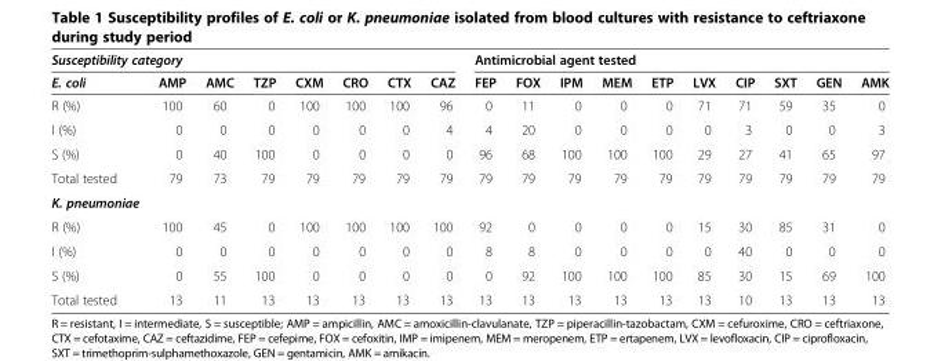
<table><thead><tr><td colspan="8">Susceptibility category</td><td colspan="10">Antimicrobial agent tested</td></tr><tr><td>E. coli</td><td>AMP</td><td>AMC</td><td>TZP</td><td>CXM</td><td>CRO</td><td>CTX</td><td>CAZ</td><td>FEP</td><td>FOX</td><td>IPM</td><td>MEM</td><td>ETP</td><td>LVX</td><td>CIP</td><td>SXT</td><td>GEN</td><td>AMK</td></tr></thead><tbody><tr><td>R (%)</td><td>100</td><td>60</td><td>0</td><td>100</td><td>100</td><td>100</td><td>96</td><td>0</td><td>11</td><td>0</td><td>0</td><td>0</td><td>71</td><td>71</td><td>59</td><td>35</td><td>0</td></tr><tr><td>I (%)</td><td>0</td><td>0</td><td>0</td><td>0</td><td>0</td><td>0</td><td>4</td><td>4</td><td>20</td><td>0</td><td>0</td><td>0</td><td>0</td><td>3</td><td>0</td><td>0</td><td>3</td></tr><tr><td>S (%)</td><td>0</td><td>40</td><td>100</td><td>0</td><td>0</td><td>0</td><td>0</td><td>96</td><td>68</td><td>100</td><td>100</td><td>100</td><td>29</td><td>27</td><td>41</td><td>65</td><td>97</td></tr><tr><td>Total tested</td><td>79</td><td>73</td><td>79</td><td>79</td><td>79</td><td>79</td><td>79</td><td>79</td><td>79</td><td>79</td><td>79</td><td>79</td><td>79</td><td>79</td><td>79</td><td>79</td><td>79</td></tr><tr><td colspan="18">K. pneumoniae</td></tr><tr><td>R (%)</td><td>100</td><td>45</td><td>0</td><td>100</td><td>100</td><td>100</td><td>100</td><td>92</td><td>0</td><td>0</td><td>0</td><td>0</td><td>15</td><td>30</td><td>85</td><td>31</td><td>0</td></tr><tr><td>I (%)</td><td>0</td><td>0</td><td>0</td><td>0</td><td>0</td><td>0</td><td>0</td><td>8</td><td>8</td><td>0</td><td>0</td><td>0</td><td>0</td><td>40</td><td>0</td><td>0</td><td>0</td></tr><tr><td>S (%)</td><td>0</td><td>55</td><td>100</td><td>0</td><td>0</td><td>0</td><td>0</td><td>0</td><td>92</td><td>100</td><td>100</td><td>100</td><td>85</td><td>30</td><td>15</td><td>69</td><td>100</td></tr><tr><td>Total tested</td><td>13</td><td>11</td><td>13</td><td>13</td><td>13</td><td>13</td><td>13</td><td>13</td><td>13</td><td>13</td><td>13</td><td>13</td><td>13</td><td>10</td><td>13</td><td>13</td><td>13</td></tr></tbody></table>